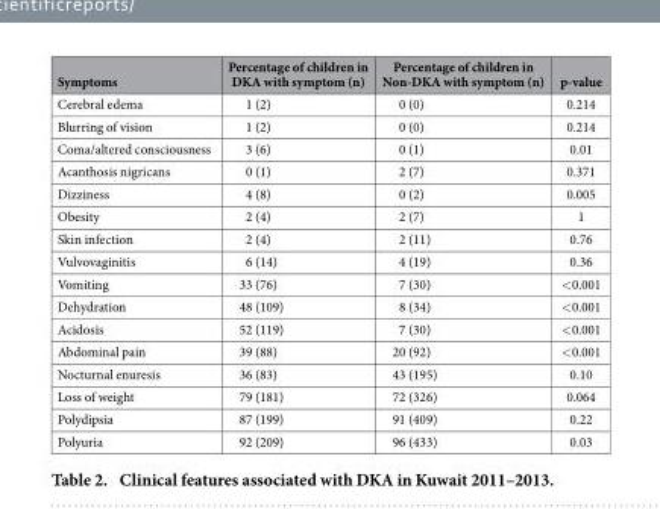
<table><thead><tr><td>Symptoms</td><td>Percentage of children in DKA with symptom (n)</td><td>Percentage of children in Non-DKA with symptom (n)</td><td>p-value</td></tr></thead><tbody><tr><td>Cerebral edema</td><td>1 (2)</td><td>0 (0)</td><td>0.214</td></tr><tr><td>Blurring of vision</td><td>1 (2)</td><td>0 (0)</td><td>0.214</td></tr><tr><td>Coma/altered consciousness</td><td>3 (6)</td><td>0 (1)</td><td>0.01</td></tr><tr><td>Acanthosis nigricans</td><td>0 (1)</td><td>2 (7)</td><td>0.371</td></tr><tr><td>Dizziness</td><td>4 (8)</td><td>0 (2)</td><td>0.005</td></tr><tr><td>Obesity</td><td>2 (4)</td><td>2 (7)</td><td>1</td></tr><tr><td>Skin infection</td><td>2 (4)</td><td>2 (11)</td><td>0.76</td></tr><tr><td>Vulvovaginitis</td><td>6 (14)</td><td>4 (19)</td><td>0.36</td></tr><tr><td>Vomiting</td><td>33 (76)</td><td>7 (30)</td><td>&lt; 0.001</td></tr><tr><td>Dehydration</td><td>48 (109)</td><td>8 (34)</td><td>&lt; 0.001</td></tr><tr><td>Acidosis</td><td>52 (119)</td><td>7 (30)</td><td>&lt; 0.001</td></tr><tr><td>Abdominal pain</td><td>39 (88)</td><td>20 (92)</td><td>&lt; 0.001</td></tr><tr><td>Nocturnal enuresis</td><td>36 (83)</td><td>43 (195)</td><td>0.10</td></tr><tr><td>Loss of weight</td><td>79 (181)</td><td>72 (326)</td><td>0.064</td></tr><tr><td>Polydipsia</td><td>87 (199)</td><td>91 (409)</td><td>0.22</td></tr><tr><td>Polyuria</td><td>92 (209)</td><td>96 (433)</td><td>0.03</td></tr></tbody></table>